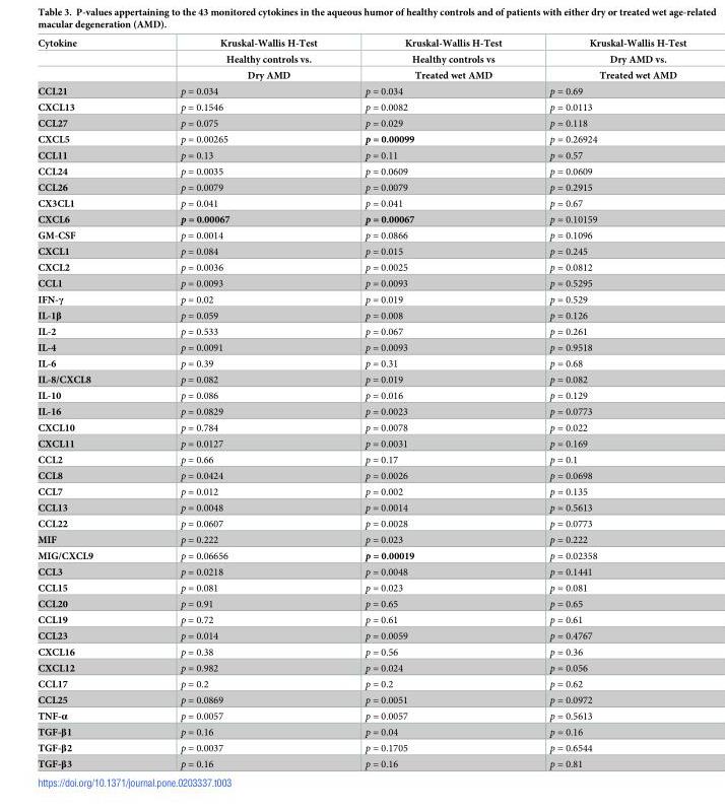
<table><thead><tr><td rowspan="3">Cytokine</td><td rowspan="3">Kruskal-Wallis H-Test Healthy controls vs. Dry AMD</td><td rowspan="3">Kruskal-Wallis H-Test Healthy controls vs Treated wet AMD</td><td rowspan="3">Kruskal-Wallis H-Test Dry AMD vs. Treated wet AMD</td></tr><tr></tr><tr></tr></thead><tbody><tr><td>CCL21</td><td>p = 0.034</td><td>p = 0.034</td><td>p = 0.69</td></tr><tr><td>CXCL13</td><td>p = 0.1546</td><td>p = 0.0082</td><td>p = 0.0113</td></tr><tr><td>CCL27</td><td>p = 0.075</td><td>p = 0.029</td><td>p = 0.118</td></tr><tr><td>CXCL5</td><td>p = 0.00265</td><td>p = 0.00099</td><td>p = 0.26924</td></tr><tr><td>CCL11</td><td>p = 0.13</td><td>p = 0.11</td><td>p = 0.57</td></tr><tr><td>CCL24</td><td>p = 0.0035</td><td>p = 0.0609</td><td>p = 0.0609</td></tr><tr><td>CCL26</td><td>p = 0.0079</td><td>p = 0.0079</td><td>p = 0.2915</td></tr><tr><td>CX3CL1</td><td>p = 0.041</td><td>p = 0.041</td><td>p = 0.67</td></tr><tr><td>CXCL6</td><td>p = 0.00067</td><td>p = 0.00067</td><td>p = 0.10159</td></tr><tr><td>GM-CSF</td><td>p = 0.0014</td><td>p = 0.0866</td><td>p = 0.1096</td></tr><tr><td>CXCL1</td><td>p = 0.084</td><td>p = 0.015</td><td>p = 0.245</td></tr><tr><td>CXCL2</td><td>p = 0.0036</td><td>p = 0.0025</td><td>p = 0.0812</td></tr><tr><td>CCL1</td><td>p = 0.0093</td><td>p = 0.0093</td><td>p = 0.5295</td></tr><tr><td>IFN-γ</td><td>p = 0.02</td><td>p = 0.019</td><td>p = 0.529</td></tr><tr><td>IL-1β</td><td>p = 0.059</td><td>p = 0.008</td><td>p = 0.126</td></tr><tr><td>IL-2</td><td>p = 0.533</td><td>p = 0.067</td><td>p = 0.261</td></tr><tr><td>IL-4</td><td>p = 0.0091</td><td>p = 0.0093</td><td>p = 0.9518</td></tr><tr><td>IL-6</td><td>p = 0.39</td><td>p = 0.31</td><td>p = 0.68</td></tr><tr><td>IL-8/CXCL8</td><td>p = 0.082</td><td>p = 0.019</td><td>p = 0.082</td></tr><tr><td>IL-10</td><td>p = 0.086</td><td>p = 0.016</td><td>p = 0.129</td></tr><tr><td>IL-16</td><td>p = 0.0829</td><td>p = 0.0023</td><td>p = 0.0773</td></tr><tr><td>CXCL10</td><td>p = 0.784</td><td>p = 0.0078</td><td>p = 0.022</td></tr><tr><td>CXCL11</td><td>p = 0.0127</td><td>p = 0.0031</td><td>p = 0.169</td></tr><tr><td>CCL2</td><td>p = 0.66</td><td>p = 0.17</td><td>p = 0.1</td></tr><tr><td>CCL8</td><td>p = 0.0424</td><td>p = 0.0026</td><td>p = 0.0698</td></tr><tr><td>CCL7</td><td>p = 0.012</td><td>p = 0.002</td><td>p = 0.135</td></tr><tr><td>CCL13</td><td>p = 0.0048</td><td>p = 0.0014</td><td>p = 0.5613</td></tr><tr><td>CCL22</td><td>p = 0.0607</td><td>p = 0.0028</td><td>p = 0.0773</td></tr><tr><td>MIF</td><td>p = 0.222</td><td>p = 0.023</td><td>p = 0.222</td></tr><tr><td>MIG/CXCL9</td><td>p = 0.06656</td><td>p = 0.00019</td><td>p = 0.02358</td></tr><tr><td>CCL3</td><td>p = 0.0218</td><td>p = 0.0048</td><td>p = 0.1441</td></tr><tr><td>CCL15</td><td>p = 0.081</td><td>p = 0.023</td><td>p = 0.081</td></tr><tr><td>CCL20</td><td>p = 0.91</td><td>p = 0.65</td><td>p = 0.65</td></tr><tr><td>CCL19</td><td>p = 0.72</td><td>p = 0.61</td><td>p = 0.61</td></tr><tr><td>CCL23</td><td>p = 0.014</td><td>p = 0.0059</td><td>p = 0.4767</td></tr><tr><td>CXCL16</td><td>p = 0.38</td><td>p = 0.56</td><td>p = 0.36</td></tr><tr><td>CXCL12</td><td>p = 0.982</td><td>p = 0.024</td><td>p = 0.056</td></tr><tr><td>CCL17</td><td>p = 0.2</td><td>p = 0.2</td><td>p = 0.62</td></tr><tr><td>CCL25</td><td>p = 0.0869</td><td>p = 0.0051</td><td>p = 0.0972</td></tr><tr><td>TNF-α</td><td>p = 0.0057</td><td>p = 0.0057</td><td>p = 0.5613</td></tr><tr><td>TGF-β1</td><td>p = 0.16</td><td>p = 0.04</td><td>p = 0.16</td></tr><tr><td>TGF-β2</td><td>p = 0.0037</td><td>p = 0.1705</td><td>p = 0.6544</td></tr><tr><td>TGF-β3</td><td>p = 0.16</td><td>p = 0.16</td><td>p = 0.81</td></tr></tbody></table>